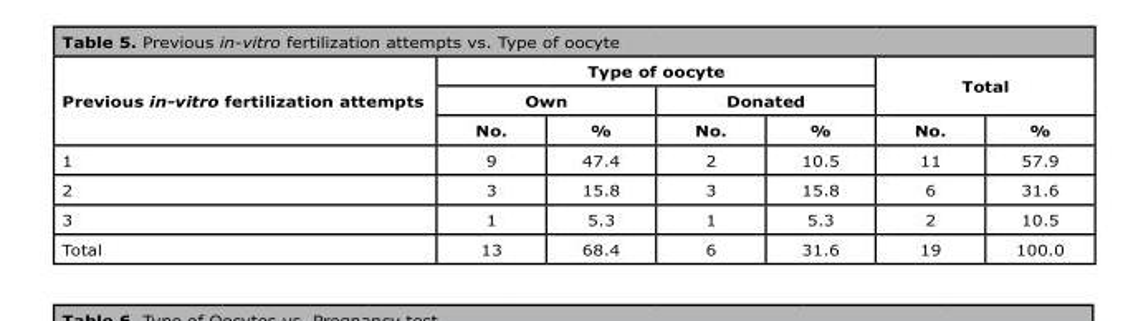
<table><thead><tr><td rowspan="3">Previous in-vitro fertilization attempts</td><td colspan="4">Type of oocyte</td><td rowspan="2" colspan="2">Total</td></tr><tr><td colspan="2">Own</td><td colspan="2">Donated</td></tr><tr><td>No.</td><td>%</td><td>No.</td><td>%</td><td>No.</td><td>%</td></tr></thead><tbody><tr><td>1</td><td>9</td><td>47.4</td><td>2</td><td>10.5</td><td>11</td><td>57.9</td></tr><tr><td>2</td><td>3</td><td>15.8</td><td>3</td><td>15.8</td><td>6</td><td>31.6</td></tr><tr><td>3</td><td>1</td><td>5.3</td><td>1</td><td>5.3</td><td>2</td><td>10.5</td></tr><tr><td>Total</td><td>13</td><td>68.4</td><td>6</td><td>31.6</td><td>19</td><td>100.0</td></tr></tbody></table>